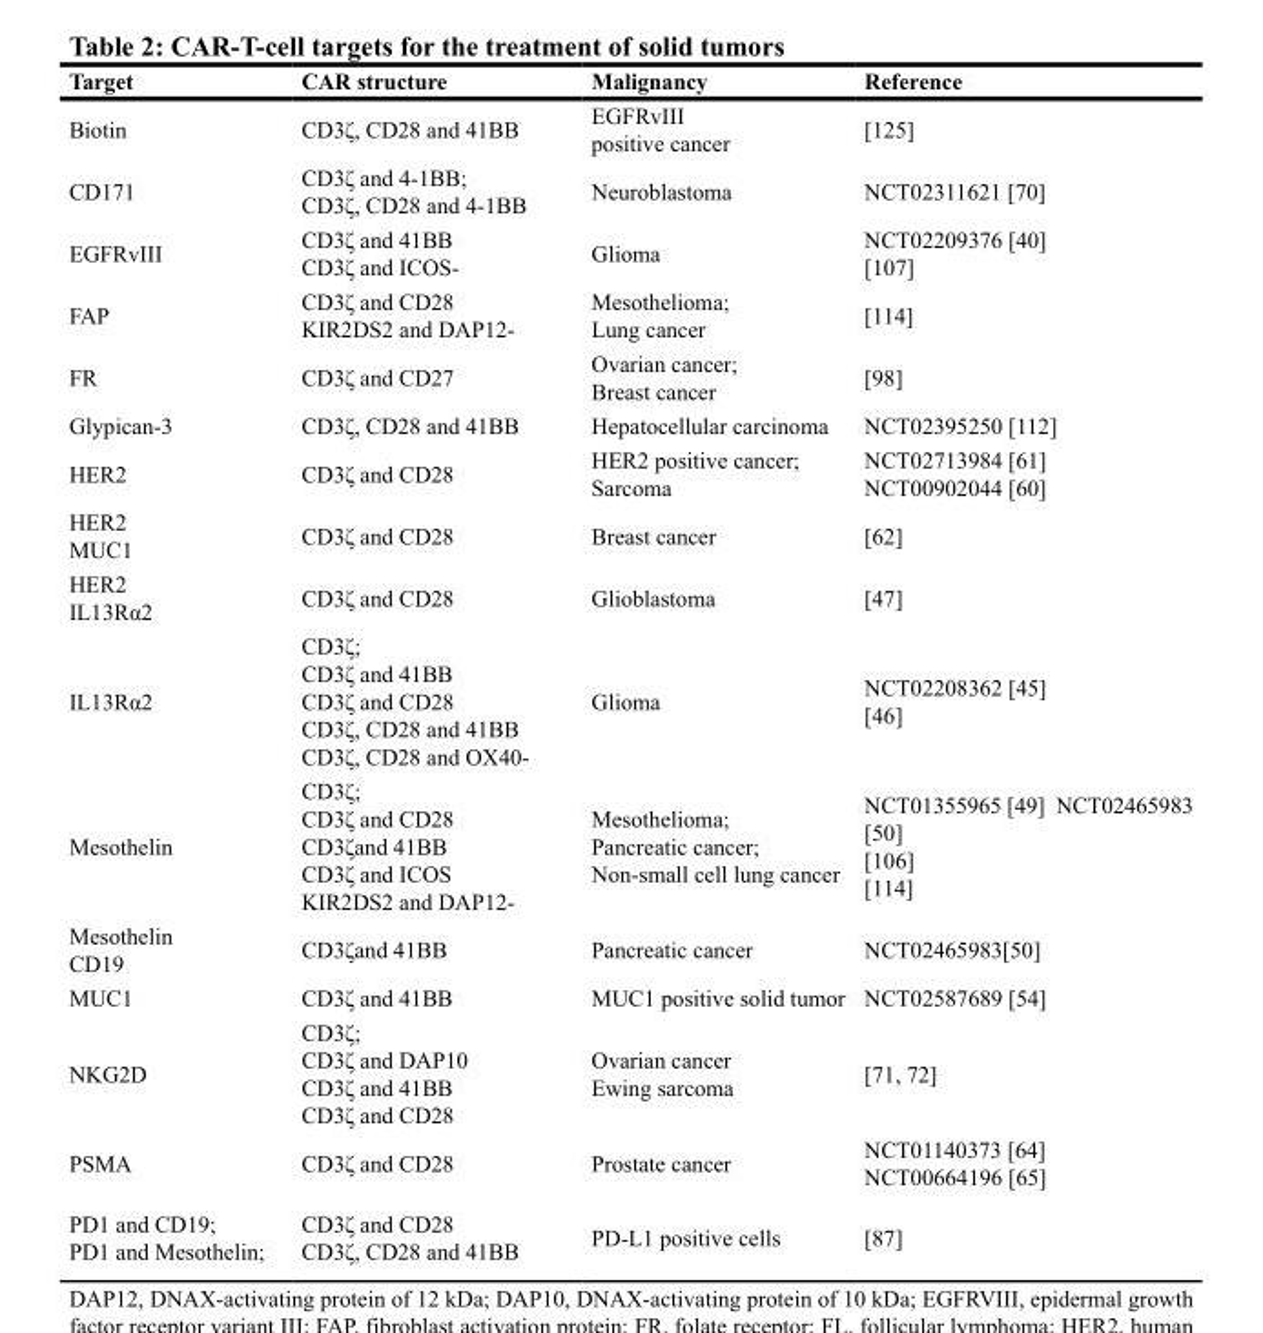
<table><thead><tr><td>Target</td><td>CAR structure</td><td>Malignancy</td><td>Reference</td></tr></thead><tbody><tr><td>Biotin</td><td>CD3ζ, CD28 and 41BB</td><td>EGFRvIII positive cancer</td><td>[125]</td></tr><tr><td>CD171</td><td>CD3ζ and 4-1BB; CD3ζ, CD28 and 4-1BB</td><td>Neuroblastoma</td><td>NCT02311621 [70]</td></tr><tr><td>EGFRvIII</td><td>CD3ζ and 41BB CD3ζ and ICOS-</td><td>Glioma</td><td>NCT02209376 [40] [107]</td></tr><tr><td>FAP</td><td>CD3ζ and CD28 KIR2DS2 and DAP12-</td><td>Mesothelioma; Lung cancer</td><td>[114]</td></tr><tr><td>FR</td><td>CD3ζ and CD27</td><td>Ovarian cancer; Breast cancer</td><td>[98]</td></tr><tr><td>Glypican-3</td><td>CD3ζ, CD28 and 41BB</td><td>Hepatocellular carcinoma</td><td>NCT02395250 [112]</td></tr><tr><td>HER2</td><td>CD3ζ and CD28</td><td>HER2 positive cancer; Sarcoma</td><td>NCT02713984 [61] NCT00902044 [60]</td></tr><tr><td>HER2 MUC1</td><td>CD3ζ and CD28</td><td>Breast cancer</td><td>[62]</td></tr><tr><td>HER2 IL13Rα2</td><td>CD3ζ and CD28</td><td>Glioblastoma</td><td>[47]</td></tr><tr><td>IL13Rα2</td><td>CD3ζ; CD3ζ and 41BB CD3ζ and CD28 CD3ζ, CD28 and 41BB CD3ζ, CD28 and OX40-</td><td>Glioma</td><td>NCT02208362 [45] [46]</td></tr><tr><td>Mesothelin</td><td>CD3ζ; CD3ζ and CD28 CD3ζand 41BB CD3ζ and ICOS KIR2DS2 and DAP12-</td><td>Mesothelioma; Pancreatic cancer; Non-small cell lung cancer</td><td>NCT01355965 [49] NCT02465983 [50] [106] [114]</td></tr><tr><td>Mesothelin CD19</td><td>CD3ζand 41BB</td><td>Pancreatic cancer</td><td>NCT02465983[50]</td></tr><tr><td>MUC1</td><td>CD3ζ and 41BB</td><td>MUC1 positive solid tumor</td><td>NCT02587689 [54]</td></tr><tr><td>NKG2D</td><td>CD3ζ; CD3ζ and DAP10 CD3ζ and 41BB CD3ζ and CD28</td><td>Ovarian cancer Ewing sarcoma</td><td>[71, 72]</td></tr><tr><td>PSMA</td><td>CD3ζ and CD28</td><td>Prostate cancer</td><td>NCT01140373 [64] NCT00664196 [65]</td></tr><tr><td>PD1 and CD19; PD1 and Mesothelin;</td><td>CD3ζ and CD28 CD3ζ, CD28 and 41BB</td><td>PD-L1 positive cells</td><td>[87]</td></tr></tbody></table>